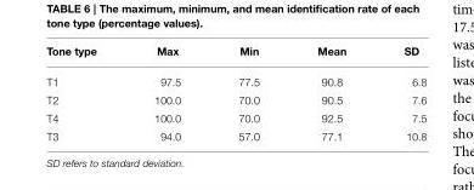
<table><thead><tr><td>Tone type</td><td>Max</td><td>Min</td><td>Mean</td><td>SD</td></tr></thead><tbody><tr><td>T1</td><td>97.5</td><td>77.5</td><td>90.8</td><td>6.8</td></tr><tr><td>T2</td><td>100.0</td><td>70.0</td><td>90.5</td><td>7.6</td></tr><tr><td>T4</td><td>100.0</td><td>70.0</td><td>92.5</td><td>7.5</td></tr><tr><td>T3</td><td>94.0</td><td>57.0</td><td>77.1</td><td>10.8</td></tr></tbody></table>